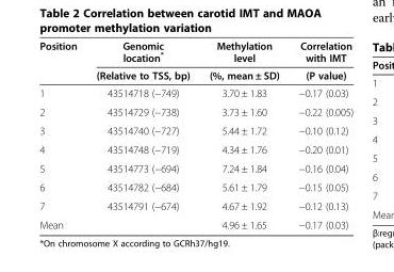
<table><thead><tr><td>Position</td><td>Genomic location*</td><td>Methylation level</td><td>Correlation with IMT</td></tr></thead><tbody><tr><td></td><td>(Relative to TSS, bp)</td><td>(%, mean ± SD)</td><td>(P value)</td></tr><tr><td>1</td><td>43514718 (−749)</td><td>3.70 ± 1.83</td><td>−0.17 (0.03)</td></tr><tr><td>2</td><td>43514729 (−738)</td><td>3.73 ± 1.60</td><td>−0.22 (0.005)</td></tr><tr><td>3</td><td>43514740 (−727)</td><td>5.44 ± 1.72</td><td>−0.10 (0.12)</td></tr><tr><td>4</td><td>43514748 (−719)</td><td>4.34 ± 1.76</td><td>−0.20 (0.01)</td></tr><tr><td>5</td><td>43514773 (−694)</td><td>7.24 ± 1.84</td><td>−0.16 (0.04)</td></tr><tr><td>6</td><td>43514782 (−684)</td><td>5.61 ± 1.79</td><td>−0.15 (0.05)</td></tr><tr><td>7</td><td>43514791 (−674)</td><td>4.67 ± 1.92</td><td>−0.12 (0.13)</td></tr><tr><td>Mean</td><td></td><td>4.96 ± 1.65</td><td>−0.17 (0.03)</td></tr></tbody></table>